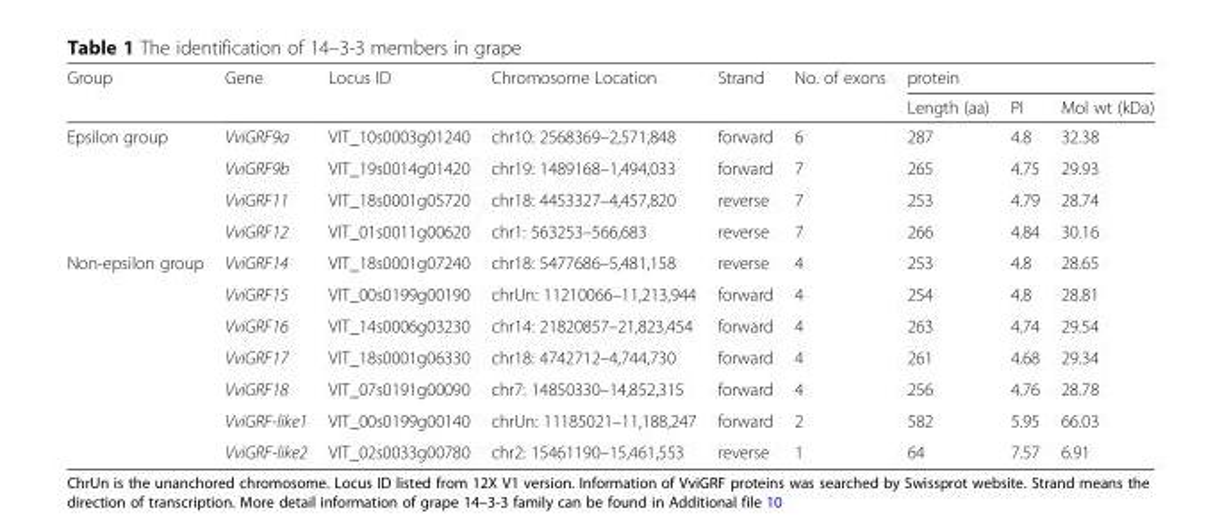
<table><thead><tr><td rowspan="2">Group</td><td rowspan="2">Gene</td><td rowspan="2">Locus ID</td><td rowspan="2">Chromosome Location</td><td rowspan="2">Strand</td><td rowspan="2">No. of exons</td><td colspan="3">protein</td></tr><tr><td>Length (aa)</td><td>PI</td><td>Mol wt (kDa)</td></tr></thead><tbody><tr><td rowspan="4">Epsilon group</td><td>VviGRF9a</td><td>VIT_10s0003g01240</td><td>chr10: 2568369–2,571,848</td><td>forward</td><td>6</td><td>287</td><td>4.8</td><td>32.38</td></tr><tr><td>VviGRF9b</td><td>VIT_19s0014g01420</td><td>chr19: 1489168–1,494,033</td><td>forward</td><td>7</td><td>265</td><td>4.75</td><td>29.93</td></tr><tr><td>VviGRF11</td><td>VIT_18s0001g05720</td><td>chr18: 4453327–4,457,820</td><td>reverse</td><td>7</td><td>253</td><td>4.79</td><td>28.74</td></tr><tr><td>VviGRF12</td><td>VIT_01s0011g00620</td><td>chr1: 563253–566,683</td><td>reverse</td><td>7</td><td>266</td><td>4.84</td><td>30.16</td></tr><tr><td rowspan="7">Non-epsilon group</td><td>VviGRF14</td><td>VIT_18s0001g07240</td><td>chr18: 5477686–5,481,158</td><td>reverse</td><td>4</td><td>253</td><td>4.8</td><td>28.65</td></tr><tr><td>VviGRF15</td><td>VIT_00s0199g00190</td><td>chrUn: 11210066–11,213,944</td><td>forward</td><td>4</td><td>254</td><td>4.8</td><td>28.81</td></tr><tr><td>VviGRF16</td><td>VIT_14s0006g03230</td><td>chr14: 21820857–21,823,454</td><td>forward</td><td>4</td><td>263</td><td>4.74</td><td>29.54</td></tr><tr><td>VviGRF17</td><td>VIT_18s0001g06330</td><td>chr18: 4742712–4,744,730</td><td>forward</td><td>4</td><td>261</td><td>4.68</td><td>29.34</td></tr><tr><td>VviGRF18</td><td>VIT_07s0191g00090</td><td>chr7: 14850330–14,852,315</td><td>forward</td><td>4</td><td>256</td><td>4.76</td><td>28.78</td></tr><tr><td>VviGRF-like1</td><td>VIT_00s0199g00140</td><td>chrUn: 11185021–11,188,247</td><td>forward</td><td>2</td><td>582</td><td>5.95</td><td>66.03</td></tr><tr><td>VviGRF-like2</td><td>VIT_02s0033g00780</td><td>chr2: 15461190–15,461,553</td><td>reverse</td><td>1</td><td>64</td><td>7.57</td><td>6.91</td></tr></tbody></table>